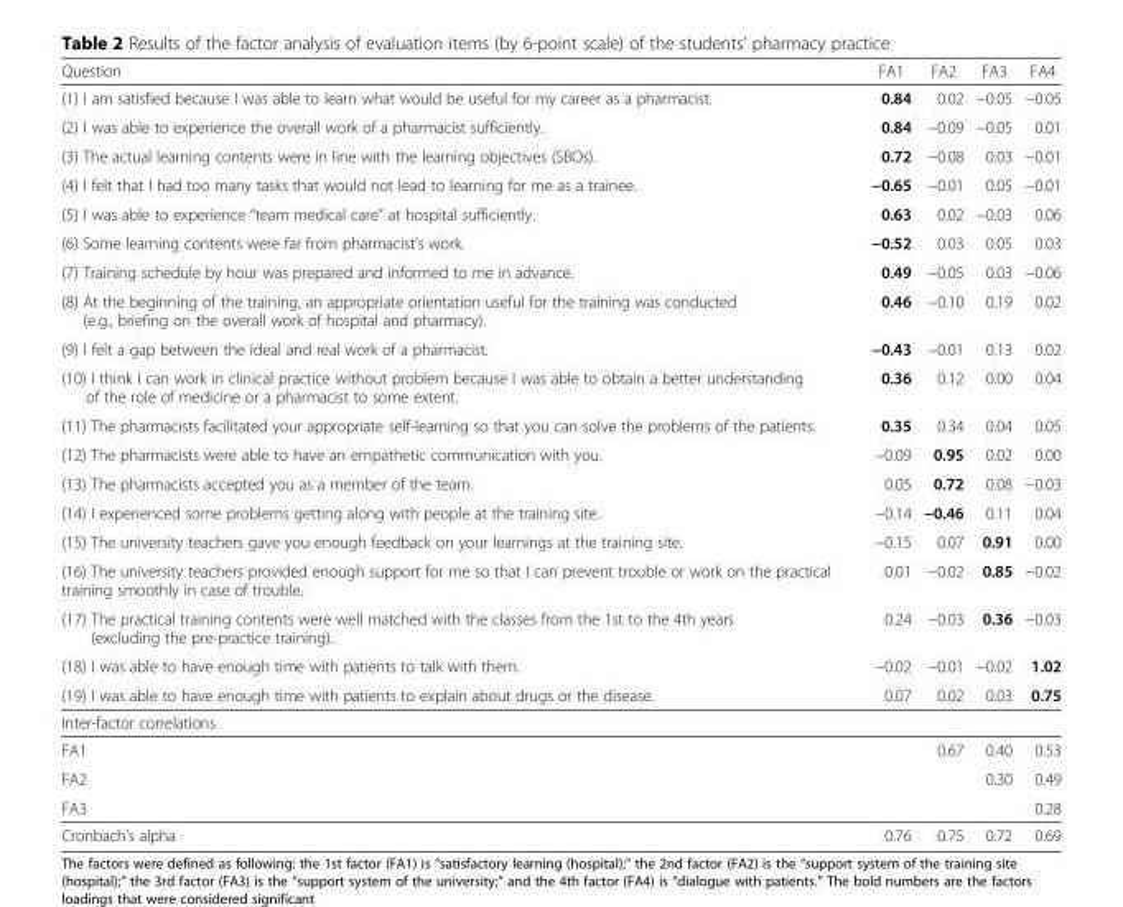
<table><thead><tr><td>Question</td><td>FA1</td><td>FA2</td><td>FA3</td><td>FA4</td></tr></thead><tbody><tr><td>(1) I am satisfied because I was able to learn what would be useful for my career as a pharmacist.</td><td>0.84</td><td>0.02</td><td>−0.05</td><td>−0.05</td></tr><tr><td>(2) I was able to experience the overall work of a pharmacist sufficiently.</td><td>0.84</td><td>−0.09</td><td>−0.05</td><td>0.01</td></tr><tr><td>(3) The actual learning contents were in line with the learning objectives (SBOs).</td><td>0.72</td><td>−0.08</td><td>0.03</td><td>−0.01</td></tr><tr><td>(4) I felt that I had too many tasks that would not lead to learning for me as a trainee.</td><td>−0.65</td><td>−0.01</td><td>0.05</td><td>−0.01</td></tr><tr><td>(5) I was able to experience “team medical care” at hospital sufficiently.</td><td>0.63</td><td>0.02</td><td>−0.03</td><td>0.06</td></tr><tr><td>(6) Some learning contents were far from pharmacist’s work.</td><td>−0.52</td><td>0.03</td><td>0.05</td><td>0.03</td></tr><tr><td>(7) Training schedule by hour was prepared and informed to me in advance.</td><td>0.49</td><td>−0.05</td><td>0.03</td><td>−0.06</td></tr><tr><td>(8) At the beginning of the training, an appropriate orientation useful for the training was conducted (e.g., briefing on the overall work of hospital and pharmacy).</td><td>0.46</td><td>−0.10</td><td>0.19</td><td>0.02</td></tr><tr><td>(9) I felt a gap between the ideal and real work of a pharmacist.</td><td>−0.43</td><td>−0.01</td><td>0.13</td><td>0.02</td></tr><tr><td>(10) I think I can work in clinical practice without problem because I was able to obtain a better understanding of the role of medicine or a pharmacist to some extent.</td><td>0.36</td><td>0.12</td><td>0.00</td><td>0.04</td></tr><tr><td>(11) The pharmacists facilitated your appropriate self-learning so that you can solve the problems of the patients.</td><td>0.35</td><td>0.34</td><td>0.04</td><td>0.05</td></tr><tr><td>(12) The pharmacists were able to have an empathetic communication with you.</td><td>−0.09</td><td>0.95</td><td>0.02</td><td>0.00</td></tr><tr><td>(13) The pharmacists accepted you as a member of the team.</td><td>0.05</td><td>0.72</td><td>0.08</td><td>−0.03</td></tr><tr><td>(14) I experienced some problems getting along with people at the training site.</td><td>−0.14</td><td>−0.46</td><td>0.11</td><td>0.04</td></tr><tr><td>(15) The university teachers gave you enough feedback on your learnings at the training site.</td><td>−0.15</td><td>0.07</td><td>0.91</td><td>0.00</td></tr><tr><td>(16) The university teachers provided enough support for me so that I can prevent trouble or work on the practical training smoothly in case of trouble.</td><td>0.01</td><td>−0.02</td><td>0.85</td><td>−0.02</td></tr><tr><td>(17) The practical training contents were well matched with the classes from the 1st to the 4th years (excluding the pre-practice training).</td><td>0.24</td><td>−0.03</td><td>0.36</td><td>−0.03</td></tr><tr><td>(18) I was able to have enough time with patients to talk with them.</td><td>−0.02</td><td>−0.01</td><td>−0.02</td><td>1.02</td></tr><tr><td>(19) I was able to have enough time with patients to explain about drugs or the disease.</td><td>0.07</td><td>0.02</td><td>0.03</td><td>0.75</td></tr><tr><td colspan="5">Inter-factor correlations</td></tr><tr><td>FA1</td><td></td><td>0.67</td><td>0.40</td><td>0.53</td></tr><tr><td>FA2</td><td></td><td></td><td>0.30</td><td>0.49</td></tr><tr><td>FA3</td><td></td><td></td><td></td><td>0.28</td></tr><tr><td>Cronbach’s alpha</td><td>0.76</td><td>0.75</td><td>0.72</td><td>0.69</td></tr></tbody></table>